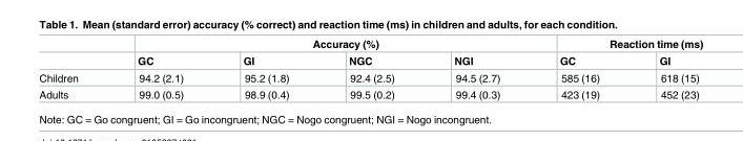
<table><thead><tr><td rowspan="2"></td><td colspan="4">Accuracy (%)</td><td colspan="2">Reaction time (ms)</td></tr><tr><td>GC</td><td>GI</td><td>NGC</td><td>NGI</td><td>GC</td><td>GI</td></tr></thead><tbody><tr><td>Children</td><td>94.2 (2.1)</td><td>95.2 (1.8)</td><td>92.4 (2.5)</td><td>94.5 (2.7)</td><td>585 (16)</td><td>618 (15)</td></tr><tr><td>Adults</td><td>99.0 (0.5)</td><td>98.9 (0.4)</td><td>99.5 (0.2)</td><td>99.4 (0.3)</td><td>423 (19)</td><td>452 (23)</td></tr></tbody></table>